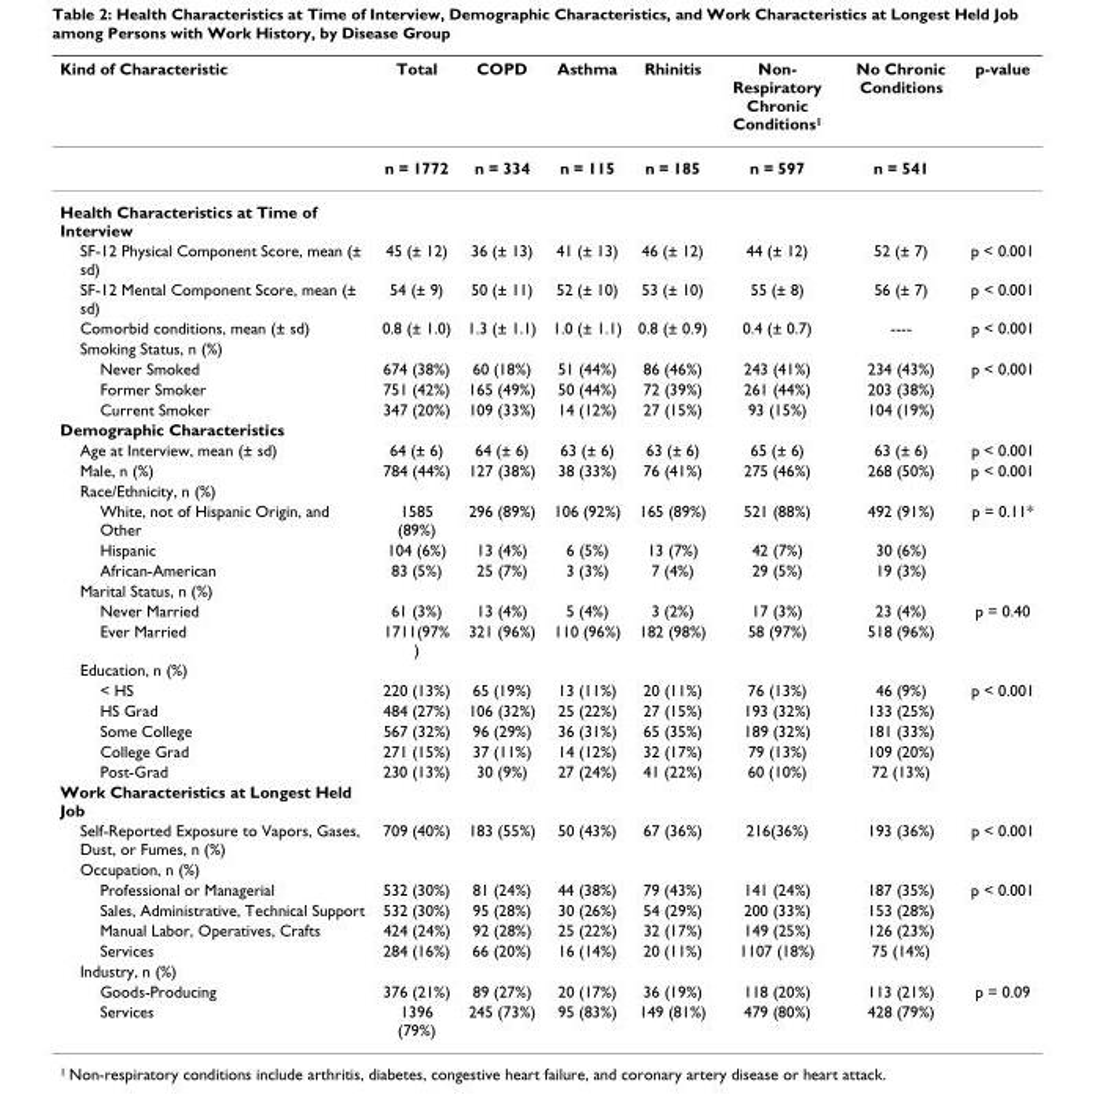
<table><thead><tr><td>Kind of Characteristic</td><td>Total</td><td>COPD</td><td>Asthma</td><td>Rhinitis</td><td>Non- Respiratory Chronic Conditions<sup>1</sup></td><td>No Chronic Conditions</td><td>p-value</td></tr></thead><tbody><tr><td></td><td>n = 1772</td><td>n = 334</td><td>n = 115</td><td>n = 185</td><td>n = 597</td><td>n = 541</td><td></td></tr><tr><td colspan="8">Health Characteristics at Time of Interview</td></tr><tr><td>SF-12 Physical Component Score, mean (± sd)</td><td>45 (± 12)</td><td>36 (± 13)</td><td>41 (± 13)</td><td>46 (± 12)</td><td>44 (± 12)</td><td>52 (± 7)</td><td>p &lt; 0.001</td></tr><tr><td>SF-12 Mental Component Score, mean (± sd)</td><td>54 (± 9)</td><td>50 (± 11)</td><td>52 (± 10)</td><td>53 (± 10)</td><td>55 (± 8)</td><td>56 (± 7)</td><td>p &lt; 0.001</td></tr><tr><td>Comorbid conditions, mean (± sd)</td><td>0.8 (± 1.0)</td><td>1.3 (± 1.1)</td><td>1.0 (± 1.1)</td><td>0.8 (± 0.9)</td><td>0.4 (± 0.7)</td><td>----</td><td>p &lt; 0.001</td></tr><tr><td colspan="8">Smoking Status, n (%)</td></tr><tr><td>Never Smoked</td><td>674 (38%)</td><td>60 (18%)</td><td>51 (44%)</td><td>86 (46%)</td><td>243 (41%)</td><td>234 (43%)</td><td>p &lt; 0.001</td></tr><tr><td>Former Smoker</td><td>751 (42%)</td><td>165 (49%)</td><td>50 (44%)</td><td>72 (39%)</td><td>261 (44%)</td><td>203 (38%)</td><td></td></tr><tr><td>Current Smoker</td><td>347 (20%)</td><td>109 (33%)</td><td>14 (12%)</td><td>27 (15%)</td><td>93 (15%)</td><td>104 (19%)</td><td></td></tr><tr><td colspan="8">Demographic Characteristics</td></tr><tr><td>Age at Interview, mean (± sd)</td><td>64 (± 6)</td><td>64 (± 6)</td><td>63 (± 6)</td><td>63 (± 6)</td><td>65 (± 6)</td><td>63 (± 6)</td><td>p &lt; 0.001</td></tr><tr><td>Male, n (%)</td><td>784 (44%)</td><td>127 (38%)</td><td>38 (33%)</td><td>76 (41%)</td><td>275 (46%)</td><td>268 (50%)</td><td>p &lt; 0.001</td></tr><tr><td colspan="8">Race/Ethnicity, n (%)</td></tr><tr><td>White, not of Hispanic Origin, and Other</td><td>1585 (89%)</td><td>296 (89%)</td><td>106 (92%)</td><td>165 (89%)</td><td>521 (88%)</td><td>492 (91%)</td><td>p = 0.11*</td></tr><tr><td>Hispanic</td><td>104 (6%)</td><td>13 (4%)</td><td>6 (5%)</td><td>13 (7%)</td><td>42 (7%)</td><td>30 (6%)</td><td></td></tr><tr><td>African-American</td><td>83 (5%)</td><td>25 (7%)</td><td>3 (3%)</td><td>7 (4%)</td><td>29 (5%)</td><td>19 (3%)</td><td></td></tr><tr><td colspan="8">Marital Status, n (%)</td></tr><tr><td>Never Married</td><td>61 (3%)</td><td>13 (4%)</td><td>5 (4%)</td><td>3 (2%)</td><td>17 (3%)</td><td>23 (4%)</td><td>p = 0.40</td></tr><tr><td>Ever Married</td><td>1711(97% )</td><td>321 (96%)</td><td>110 (96%)</td><td>182 (98%)</td><td>58 (97%)</td><td>518 (96%)</td><td></td></tr><tr><td colspan="8">Education, n (%)</td></tr><tr><td>&lt; HS</td><td>220 (13%)</td><td>65 (19%)</td><td>13 (11%)</td><td>20 (11%)</td><td>76 (13%)</td><td>46 (9%)</td><td>p &lt; 0.001</td></tr><tr><td>HS Grad</td><td>484 (27%)</td><td>106 (32%)</td><td>25 (22%)</td><td>27 (15%)</td><td>193 (32%)</td><td>133 (25%)</td><td></td></tr><tr><td>Some College</td><td>567 (32%)</td><td>96 (29%)</td><td>36 (31%)</td><td>65 (35%)</td><td>189 (32%)</td><td>181 (33%)</td><td></td></tr><tr><td>College Grad</td><td>271 (15%)</td><td>37 (11%)</td><td>14 (12%)</td><td>32 (17%)</td><td>79 (13%)</td><td>109 (20%)</td><td></td></tr><tr><td>Post-Grad</td><td>230 (13%)</td><td>30 (9%)</td><td>27 (24%)</td><td>41 (22%)</td><td>60 (10%)</td><td>72 (13%)</td><td></td></tr><tr><td colspan="8">Work Characteristics at Longest Held Job</td></tr><tr><td>Self-Reported Exposure to Vapors, Gases, Dust, or Fumes, n (%)</td><td>709 (40%)</td><td>183 (55%)</td><td>50 (43%)</td><td>67 (36%)</td><td>216(36%)</td><td>193 (36%)</td><td>p &lt; 0.001</td></tr><tr><td colspan="8">Occupation, n (%)</td></tr><tr><td>Professional or Managerial</td><td>532 (30%)</td><td>81 (24%)</td><td>44 (38%)</td><td>79 (43%)</td><td>141 (24%)</td><td>187 (35%)</td><td>p &lt; 0.001</td></tr><tr><td>Sales, Administrative, Technical Support</td><td>532 (30%)</td><td>95 (28%)</td><td>30 (26%)</td><td>54 (29%)</td><td>200 (33%)</td><td>153 (28%)</td><td></td></tr><tr><td>Manual Labor, Operatives, Crafts</td><td>424 (24%)</td><td>92 (28%)</td><td>25 (22%)</td><td>32 (17%)</td><td>149 (25%)</td><td>126 (23%)</td><td></td></tr><tr><td>Services</td><td>284 (16%)</td><td>66 (20%)</td><td>16 (14%)</td><td>20 (11%)</td><td>1107 (18%)</td><td>75 (14%)</td><td></td></tr><tr><td colspan="8">Industry, n (%)</td></tr><tr><td>Goods-Producing</td><td>376 (21%)</td><td>89 (27%)</td><td>20 (17%)</td><td>36 (19%)</td><td>118 (20%)</td><td>113 (21%)</td><td>p = 0.09</td></tr><tr><td>Services</td><td>1396 (79%)</td><td>245 (73%)</td><td>95 (83%)</td><td>149 (81%)</td><td>479 (80%)</td><td>428 (79%)</td><td></td></tr></tbody></table>